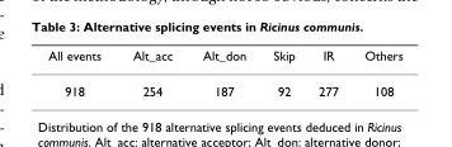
<table><thead><tr><td>All events</td><td>Alt_acc</td><td>Alt_don</td><td>Skip</td><td>IR</td><td>Others</td></tr></thead><tbody><tr><td>918</td><td>254</td><td>187</td><td>92</td><td>277</td><td>108</td></tr></tbody></table>